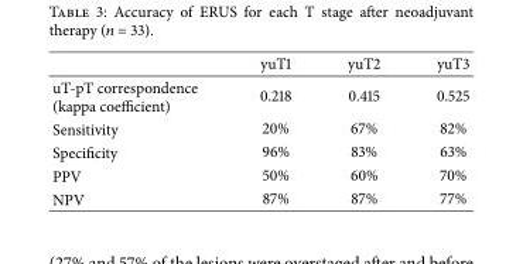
<table><thead><tr><td></td><td>yuT1</td><td>yuT2</td><td>yuT3</td></tr></thead><tbody><tr><td>uT-pT correspondence (kappa coefficient)</td><td>0.218</td><td>0.415</td><td>0.525</td></tr><tr><td>Sensitivity</td><td>20%</td><td>67%</td><td>82%</td></tr><tr><td>Specificity</td><td>96%</td><td>83%</td><td>63%</td></tr><tr><td>PPV</td><td>50%</td><td>60%</td><td>70%</td></tr><tr><td>NPV</td><td>87%</td><td>87%</td><td>77%</td></tr></tbody></table>